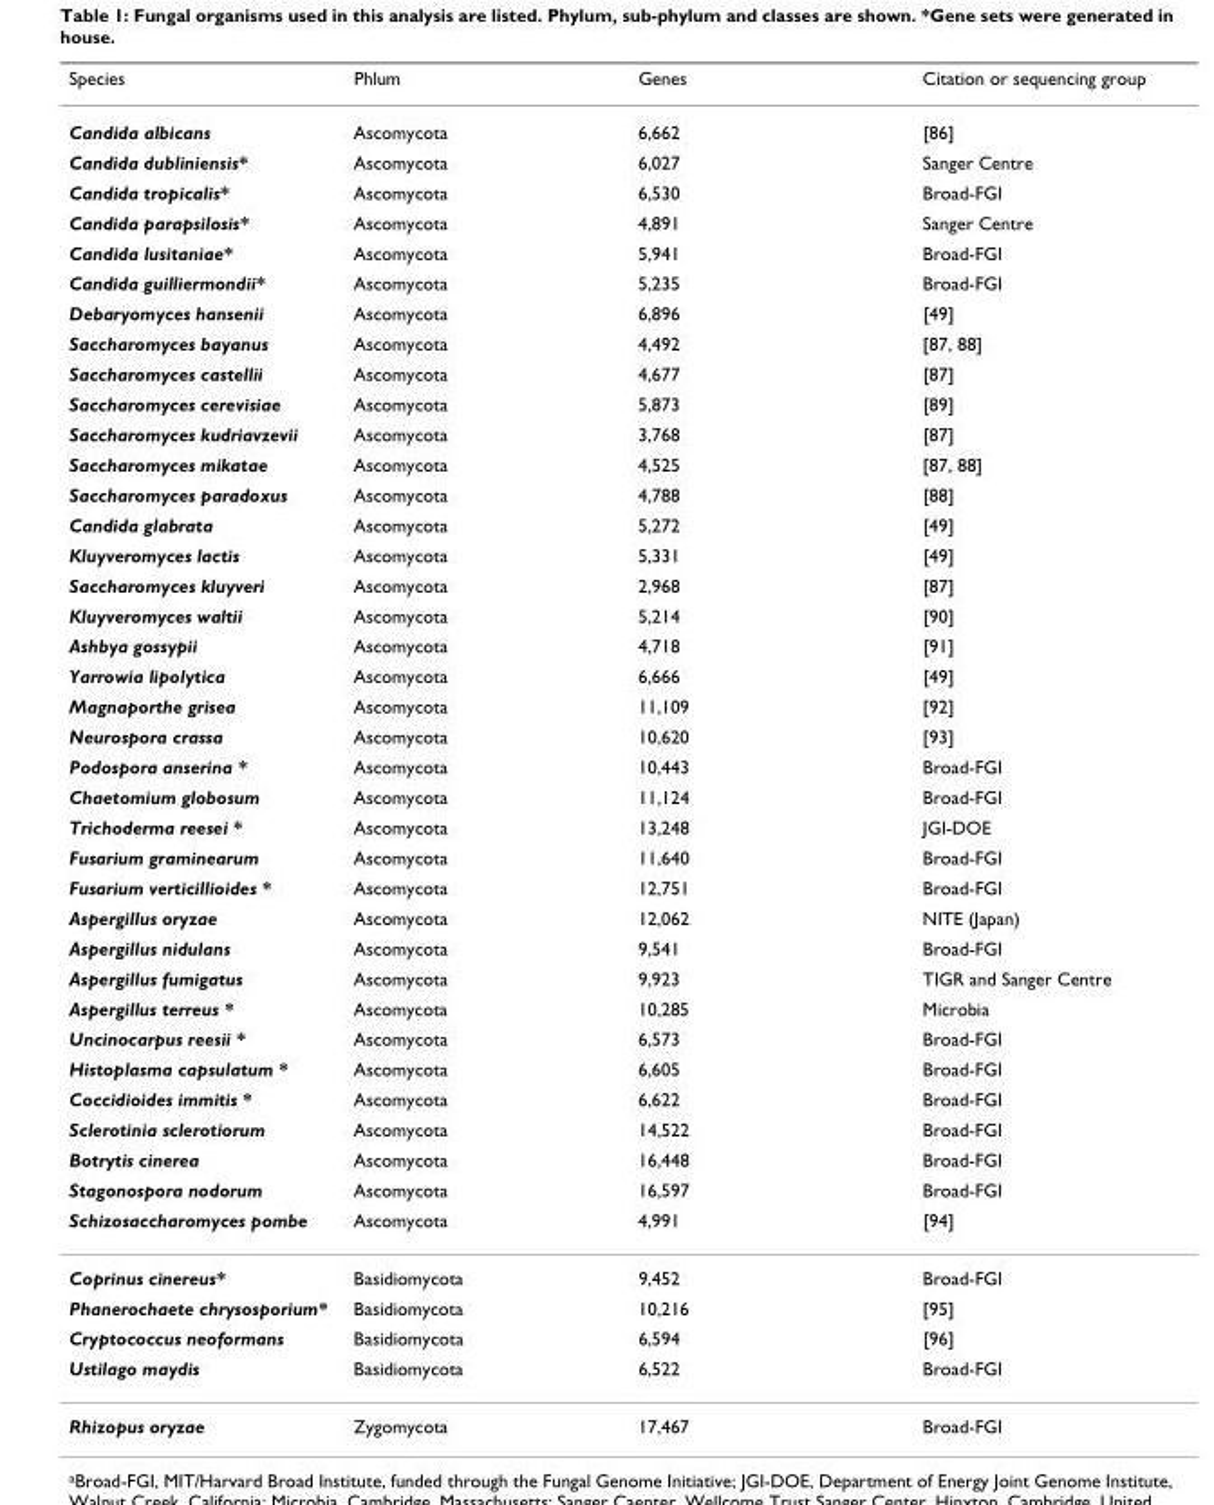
<table><thead><tr><td>Species</td><td>Phlum</td><td>Genes</td><td>Citation or sequencing group</td></tr></thead><tbody><tr><td>Candida albicans</td><td>Ascomycota</td><td>6,662</td><td>[86]</td></tr><tr><td>Candida dubliniensis*</td><td>Ascomycota</td><td>6,027</td><td>Sanger Centre</td></tr><tr><td>Candida tropicalis*</td><td>Ascomycota</td><td>6,530</td><td>Broad-FGI</td></tr><tr><td>Candida parapsilosis*</td><td>Ascomycota</td><td>4,891</td><td>Sanger Centre</td></tr><tr><td>Candida lusitaniae*</td><td>Ascomycota</td><td>5,941</td><td>Broad-FGI</td></tr><tr><td>Candida guilliermondii*</td><td>Ascomycota</td><td>5,235</td><td>Broad-FGI</td></tr><tr><td>Debaryomyces hansenii</td><td>Ascomycota</td><td>6,896</td><td>[49]</td></tr><tr><td>Saccharomyces bayanus</td><td>Ascomycota</td><td>4,492</td><td>[87, 88]</td></tr><tr><td>Saccharomyces castellii</td><td>Ascomycota</td><td>4,677</td><td>[87]</td></tr><tr><td>Saccharomyces cerevisiae</td><td>Ascomycota</td><td>5,873</td><td>[89]</td></tr><tr><td>Saccharomyces kudriavzevii</td><td>Ascomycota</td><td>3,768</td><td>[87]</td></tr><tr><td>Saccharomyces mikatae</td><td>Ascomycota</td><td>4,525</td><td>[87, 88]</td></tr><tr><td>Saccharomyces paradoxus</td><td>Ascomycota</td><td>4,788</td><td>[88]</td></tr><tr><td>Candida glabrata</td><td>Ascomycota</td><td>5,272</td><td>[49]</td></tr><tr><td>Kluyveromyces lactis</td><td>Ascomycota</td><td>5,331</td><td>[49]</td></tr><tr><td>Saccharomyces kluyveri</td><td>Ascomycota</td><td>2,968</td><td>[87]</td></tr><tr><td>Kluyveromyces waltii</td><td>Ascomycota</td><td>5,214</td><td>[90]</td></tr><tr><td>Ashbya gossypii</td><td>Ascomycota</td><td>4,718</td><td>[91]</td></tr><tr><td>Yarrowia lipolytica</td><td>Ascomycota</td><td>6,666</td><td>[49]</td></tr><tr><td>Magnaporthe grisea</td><td>Ascomycota</td><td>11,109</td><td>[92]</td></tr><tr><td>Neurospora crassa</td><td>Ascomycota</td><td>10,620</td><td>[93]</td></tr><tr><td>Podospora anserina *</td><td>Ascomycota</td><td>10,443</td><td>Broad-FGI</td></tr><tr><td>Chaetomium globosum</td><td>Ascomycota</td><td>11,124</td><td>Broad-FGI</td></tr><tr><td>Trichoderma reesei *</td><td>Ascomycota</td><td>13,248</td><td>JGI-DOE</td></tr><tr><td>Fusarium graminearum</td><td>Ascomycota</td><td>11,640</td><td>Broad-FGI</td></tr><tr><td>Fusarium verticillioides *</td><td>Ascomycota</td><td>12,751</td><td>Broad-FGI</td></tr><tr><td>Aspergillus oryzae</td><td>Ascomycota</td><td>12,062</td><td>NITE (Japan)</td></tr><tr><td>Aspergillus nidulans</td><td>Ascomycota</td><td>9,541</td><td>Broad-FGI</td></tr><tr><td>Aspergillus fumigatus</td><td>Ascomycota</td><td>9,923</td><td>TIGR and Sanger Centre</td></tr><tr><td>Aspergillus terreus *</td><td>Ascomycota</td><td>10,285</td><td>Microbia</td></tr><tr><td>Uncinocarpus reesii *</td><td>Ascomycota</td><td>6,573</td><td>Broad-FGI</td></tr><tr><td>Histoplasma capsulatum *</td><td>Ascomycota</td><td>6,605</td><td>Broad-FGI</td></tr><tr><td>Coccidioides immitis *</td><td>Ascomycota</td><td>6,622</td><td>Broad-FGI</td></tr><tr><td>Sclerotinia sclerotiorum</td><td>Ascomycota</td><td>14,522</td><td>Broad-FGI</td></tr><tr><td>Botrytis cinerea</td><td>Ascomycota</td><td>16,448</td><td>Broad-FGI</td></tr><tr><td>Stagonospora nodorum</td><td>Ascomycota</td><td>16,597</td><td>Broad-FGI</td></tr><tr><td>Schizosaccharomyces pombe</td><td>Ascomycota</td><td>4,991</td><td>[94]</td></tr><tr><td>Coprinus cinereus*</td><td>Basidiomycota</td><td>9,452</td><td>Broad-FGI</td></tr><tr><td>Phanerochaete chrysosporium*</td><td>Basidiomycota</td><td>10,216</td><td>[95]</td></tr><tr><td>Cryptococcus neoformans</td><td>Basidiomycota</td><td>6,594</td><td>[96]</td></tr><tr><td>Ustilago maydis</td><td>Basidiomycota</td><td>6,522</td><td>Broad-FGI</td></tr><tr><td>Rhizopus oryzae</td><td>Zygomycota</td><td>17,467</td><td>Broad-FGI</td></tr></tbody></table>